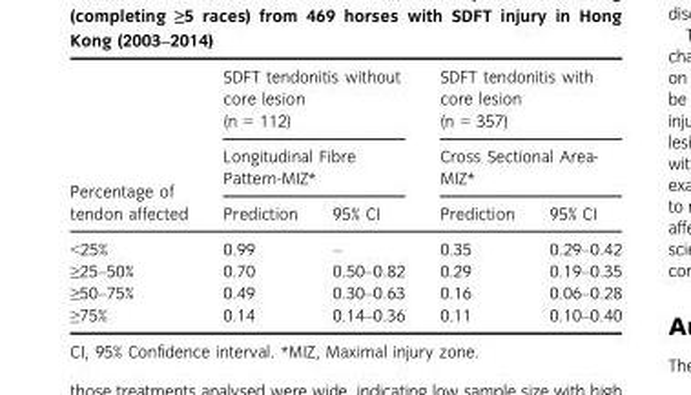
<table><thead><tr><td rowspan="3">Percentage of tendon affected</td><td rowspan="2" colspan="2">SDFT tendonitis without core lesion (n = 112) Longitudinal Fibre Pattern-MIZ*</td><td rowspan="2" colspan="2">SDFT tendonitis with core lesion (n = 357) Cross Sectional Area- MIZ*</td></tr><tr></tr><tr><td>Prediction</td><td>95% CI</td><td>Prediction</td><td>95% CI</td></tr></thead><tbody><tr><td>&lt;25%</td><td>0.99</td><td>–</td><td>0.35</td><td>0.29–0.42</td></tr><tr><td>≥25–50%</td><td>0.70</td><td>0.50–0.82</td><td>0.29</td><td>0.19–0.35</td></tr><tr><td>≥50–75%</td><td>0.49</td><td>0.30–0.63</td><td>0.16</td><td>0.06–0.28</td></tr><tr><td>≥75%</td><td>0.14</td><td>0.14–0.36</td><td>0.11</td><td>0.10–0.40</td></tr></tbody></table>